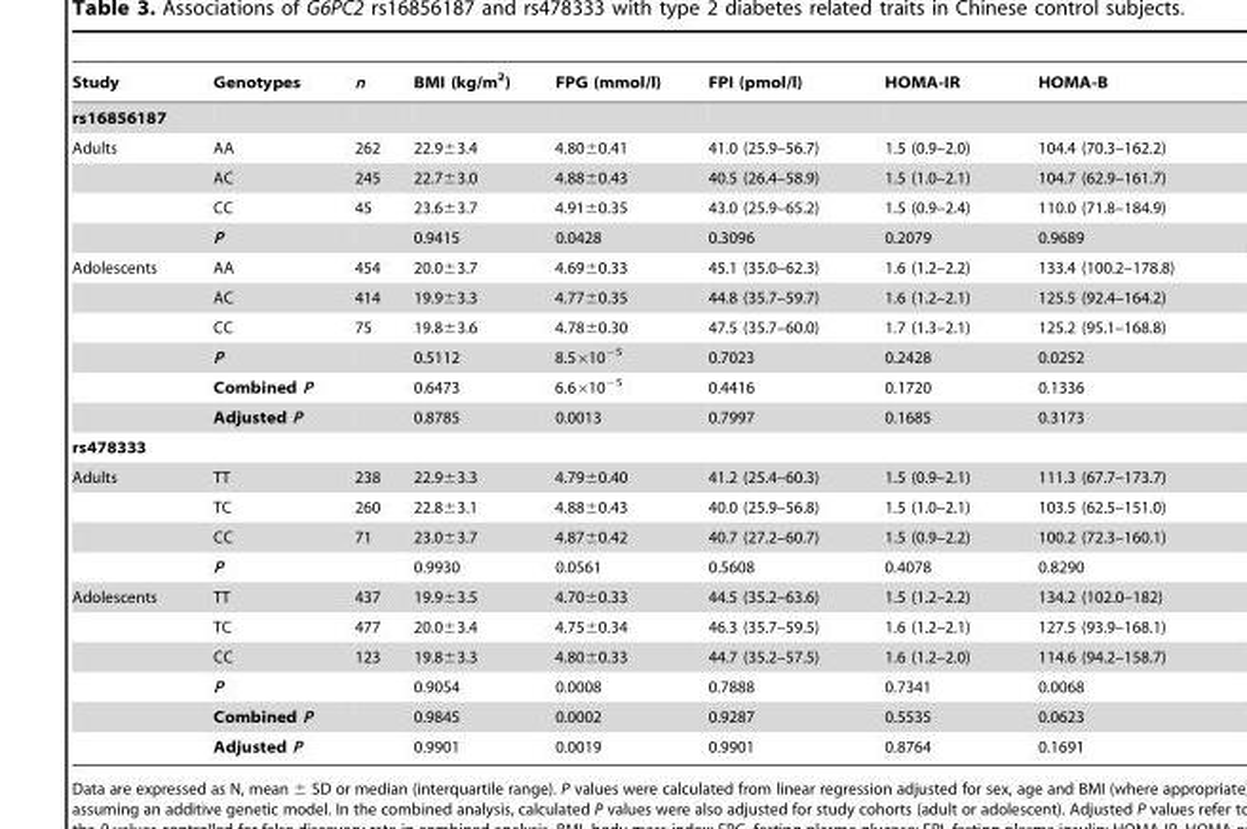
<table><thead><tr><td>Study</td><td>Genotypes</td><td>n</td><td>BMI (kg/m<sup>2</sup>)</td><td>FPG (mmol/l)</td><td>FPI (pmol/l)</td><td>HOMA-IR</td><td>HOMA-B</td></tr></thead><tbody><tr><td colspan="8">rs16856187</td></tr><tr><td rowspan="4">Adults</td><td>AA</td><td>262</td><td>22.9±3.4</td><td>4.80±0.41</td><td>41.0 (25.9–56.7)</td><td>1.5 (0.9–2.0)</td><td>104.4 (70.3–162.2)</td></tr><tr><td>AC</td><td>245</td><td>22.7±3.0</td><td>4.88±0.43</td><td>40.5 (26.4–58.9)</td><td>1.5 (1.0–2.1)</td><td>104.7 (62.9–161.7)</td></tr><tr><td>CC</td><td>45</td><td>23.6±3.7</td><td>4.91±0.35</td><td>43.0 (25.9–65.2)</td><td>1.5 (0.9–2.4)</td><td>110.0 (71.8–184.9)</td></tr><tr><td>P</td><td></td><td>0.9415</td><td>0.0428</td><td>0.3096</td><td>0.2079</td><td>0.9689</td></tr><tr><td rowspan="6">Adolescents</td><td>AA</td><td>454</td><td>20.0±3.7</td><td>4.69±0.33</td><td>45.1 (35.0–62.3)</td><td>1.6 (1.2–2.2)</td><td>133.4 (100.2–178.8)</td></tr><tr><td>AC</td><td>414</td><td>19.9±3.3</td><td>4.77±0.35</td><td>44.8 (35.7–59.7)</td><td>1.6 (1.2–2.1)</td><td>125.5 (92.4–164.2)</td></tr><tr><td>CC</td><td>75</td><td>19.8±3.6</td><td>4.78±0.30</td><td>47.5 (35.7–60.0)</td><td>1.7 (1.3–2.1)</td><td>125.2 (95.1–168.8)</td></tr><tr><td>P</td><td></td><td>0.5112</td><td>8.5×10<sup>−5</sup></td><td>0.7023</td><td>0.2428</td><td>0.0252</td></tr><tr><td>Combined P</td><td></td><td>0.6473</td><td>6.6×10<sup>−5</sup></td><td>0.4416</td><td>0.1720</td><td>0.1336</td></tr><tr><td>Adjusted P</td><td></td><td>0.8785</td><td>0.0013</td><td>0.7997</td><td>0.1685</td><td>0.3173</td></tr><tr><td colspan="8">rs478333</td></tr><tr><td rowspan="4">Adults</td><td>TT</td><td>238</td><td>22.9±3.3</td><td>4.79±0.40</td><td>41.2 (25.4–60.3)</td><td>1.5 (0.9–2.1)</td><td>111.3 (67.7–173.7)</td></tr><tr><td>TC</td><td>260</td><td>22.8±3.1</td><td>4.88±0.43</td><td>40.0 (25.9–56.8)</td><td>1.5 (1.0–2.1)</td><td>103.5 (62.5–151.0)</td></tr><tr><td>CC</td><td>71</td><td>23.0±3.7</td><td>4.87±0.42</td><td>40.7 (27.2–60.7)</td><td>1.5 (0.9–2.2)</td><td>100.2 (72.3–160.1)</td></tr><tr><td>P</td><td></td><td>0.9930</td><td>0.0561</td><td>0.5608</td><td>0.4078</td><td>0.8290</td></tr><tr><td rowspan="6">Adolescents</td><td>TT</td><td>437</td><td>19.9±3.5</td><td>4.70±0.33</td><td>44.5 (35.2–63.6)</td><td>1.5 (1.2–2.2)</td><td>134.2 (102.0–182)</td></tr><tr><td>TC</td><td>477</td><td>20.0±3.4</td><td>4.75±0.34</td><td>46.3 (35.7–59.5)</td><td>1.6 (1.2–2.1)</td><td>127.5 (93.9–168.1)</td></tr><tr><td>CC</td><td>123</td><td>19.8±3.3</td><td>4.80±0.33</td><td>44.7 (35.2–57.5)</td><td>1.6 (1.2–2.0)</td><td>114.6 (94.2–158.7)</td></tr><tr><td>P</td><td></td><td>0.9054</td><td>0.0008</td><td>0.7888</td><td>0.7341</td><td>0.0068</td></tr><tr><td>Combined P</td><td></td><td>0.9845</td><td>0.0002</td><td>0.9287</td><td>0.5535</td><td>0.0623</td></tr><tr><td>Adjusted P</td><td></td><td>0.9901</td><td>0.0019</td><td>0.9901</td><td>0.8764</td><td>0.1691</td></tr></tbody></table>